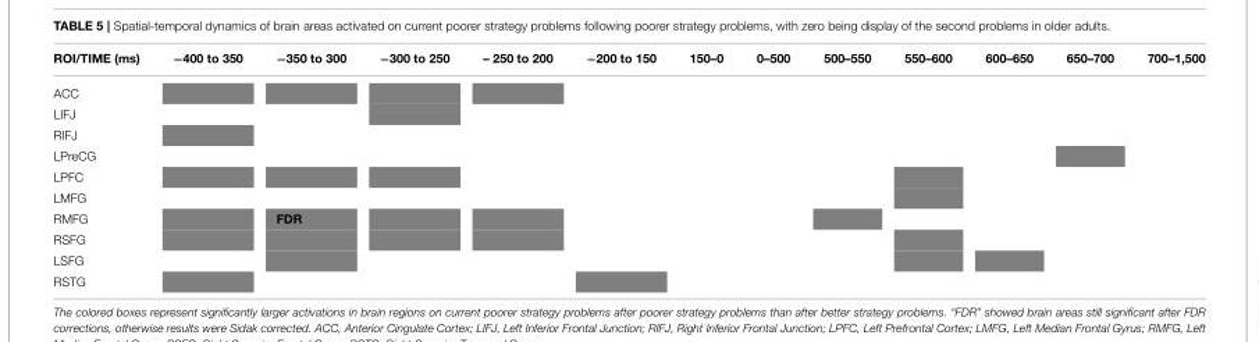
<table><thead><tr><td>ROI/TIME (ms)</td><td>−400 to 350</td><td>−350 to 300</td><td>−300 to 250</td><td>– 250 to 200</td><td>−200 to 150</td><td>150–0</td><td>0–500</td><td>500–550</td><td>550–600</td><td>600–650</td><td>650–700</td><td>700–1,500</td></tr></thead><tbody><tr><td colspan="13">ACC</td></tr><tr><td colspan="13">LIFJ</td></tr><tr><td colspan="13">RIFJ</td></tr><tr><td colspan="13">LPreCG</td></tr><tr><td colspan="13">LPFC</td></tr><tr><td colspan="13">LMFG</td></tr><tr><td>RMFG</td><td></td><td>FDR</td><td></td><td></td><td></td><td></td><td></td><td></td><td></td><td></td><td></td><td></td></tr><tr><td colspan="13">RSFG</td></tr><tr><td colspan="13">LSFG</td></tr><tr><td>RSTG</td><td></td><td></td><td></td><td></td><td></td><td></td><td></td><td></td><td></td><td></td><td></td><td></td></tr></tbody></table>